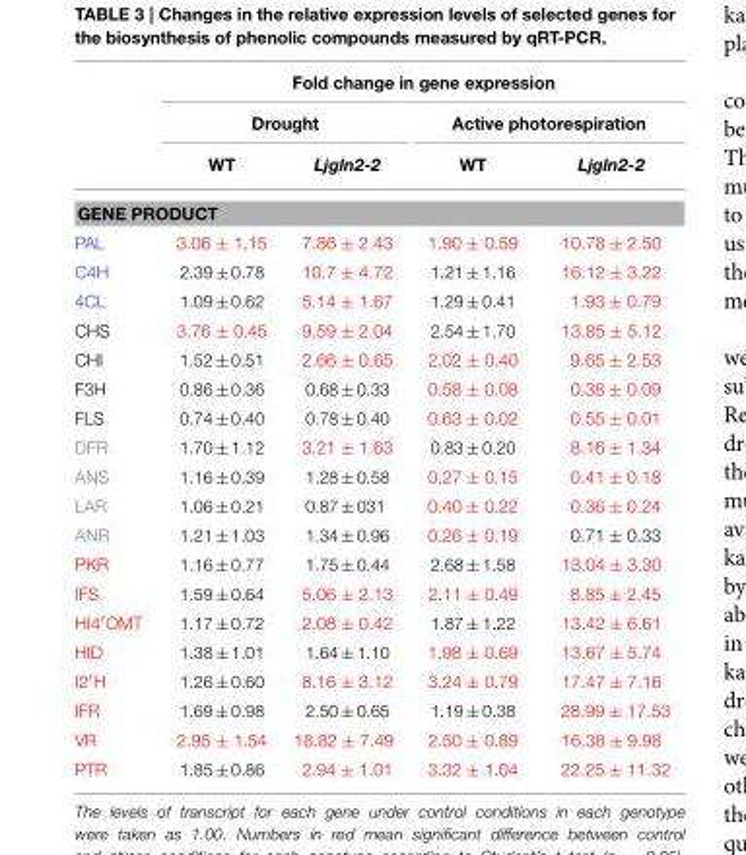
<table><thead><tr><td rowspan="3"></td><td colspan="4">Fold change in gene expression</td></tr><tr><td colspan="2">Drought</td><td colspan="2">Active photorespiration</td></tr><tr><td>WT</td><td>Ljgln2-2</td><td>WT</td><td>Ljgln2-2</td></tr></thead><tbody><tr><td colspan="5">GENE PRODUCT</td></tr><tr><td>PAL</td><td>3.06 ± 1.15</td><td>7.86 ± 2.43</td><td>1.90 ± 0.59</td><td>10.78 ± 2.50</td></tr><tr><td>C4H</td><td>2.39 ± 0.78</td><td>10.7 ± 4.72</td><td>1.21 ± 1.16</td><td>16.12 ± 3.22</td></tr><tr><td>4CL</td><td>1.09 ± 0.62</td><td>5.14 ± 1.67</td><td>1.29 ± 0.41</td><td>1.93 ± 0.79</td></tr><tr><td>CHS</td><td>3.76 ± 0.45</td><td>9.59 ± 2.04</td><td>2.54 ± 1.70</td><td>13.85 ± 5.12</td></tr><tr><td>CHI</td><td>1.52 ± 0.51</td><td>2.66 ± 0.65</td><td>2.02 ± 0.40</td><td>9.65 ± 2.53</td></tr><tr><td>F3H</td><td>0.86 ± 0.36</td><td>0.68 ± 0.33</td><td>0.58 ± 0.08</td><td>0.38 ± 0.09</td></tr><tr><td>FLS</td><td>0.74 ± 0.40</td><td>0.78 ± 0.40</td><td>0.63 ± 0.02</td><td>0.55 ± 0.01</td></tr><tr><td>DFR</td><td>1.70 ± 1.12</td><td>3.21 ± 1.63</td><td>0.83 ± 0.20</td><td>8.16 ± 1.34</td></tr><tr><td>ANS</td><td>1.16 ± 0.39</td><td>1.28 ± 0.58</td><td>0.27 ± 0.15</td><td>0.41 ± 0.18</td></tr><tr><td>LAR</td><td>1.06 ± 0.21</td><td>0.87 ± 031</td><td>0.40 ± 0.22</td><td>0.36 ± 0.24</td></tr><tr><td>ANR</td><td>1.21 ± 1.03</td><td>1.34 ± 0.96</td><td>0.26 ± 0.19</td><td>0.71 ± 0.33</td></tr><tr><td>PKR</td><td>1.16 ± 0.77</td><td>1.75 ± 0.44</td><td>2.68 ± 1.58</td><td>13.04 ± 3.30</td></tr><tr><td>IFS</td><td>1.59 ± 0.64</td><td>5.06 ± 2.13</td><td>2.11 ± 0.49</td><td>8.85 ± 2.45</td></tr><tr><td>HI4′OMT</td><td>1.17 ± 0.72</td><td>2.08 ± 0.42</td><td>1.87 ± 1.22</td><td>13.42 ± 6.61</td></tr><tr><td>HID</td><td>1.38 ± 1.01</td><td>1.64 ± 1.10</td><td>1.98 ± 0.69</td><td>13.67 ± 5.74</td></tr><tr><td>I2′H</td><td>1.26 ± 0.60</td><td>8.16 ± 3.12</td><td>3.24 ± 0.79</td><td>17.47 ± 7.16</td></tr><tr><td>IFR</td><td>1.69 ± 0.98</td><td>2.50 ± 0.65</td><td>1.19 ± 0.38</td><td>28.99 ± 17.53</td></tr><tr><td>VR</td><td>2.95 ± 1.54</td><td>18.82 ± 7.49</td><td>2.50 ± 0.89</td><td>16.38 ± 9.98</td></tr><tr><td>PTR</td><td>1.85 ± 0.86</td><td>2.94 ± 1.01</td><td>3.32 ± 1.04</td><td>22.25 ± 11.32</td></tr></tbody></table>